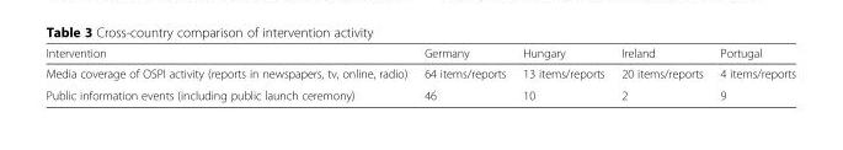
<table><thead><tr><td>Intervention</td><td>Germany</td><td>Hungary</td><td>Ireland</td><td>Portugal</td></tr></thead><tbody><tr><td>Media coverage of OSPI activity (reports in newspapers, tv, online, radio)</td><td>64 items/reports</td><td>13 items/reports</td><td>20 items/reports</td><td>4 items/reports</td></tr><tr><td>Public information events (including public launch ceremony)</td><td>46</td><td>10</td><td>2</td><td>9</td></tr></tbody></table>